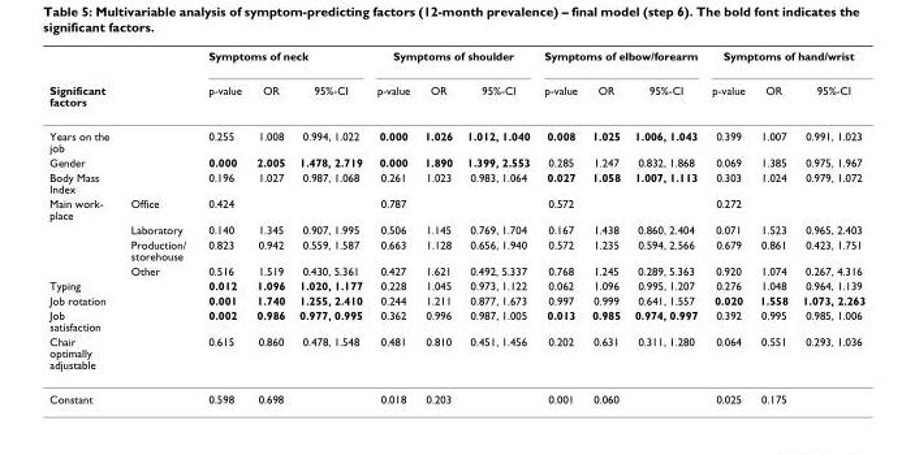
<table><thead><tr><td rowspan="2">Significant factors</td><td rowspan="2"></td><td colspan="3">Symptoms of neck</td><td colspan="3">Symptoms of shoulder</td><td colspan="3">Symptoms of elbow/forearm</td><td colspan="3">Symptoms of hand/wrist</td></tr><tr><td>p-value</td><td>OR</td><td>95%-CI</td><td>p-value</td><td>OR</td><td>95%-CI</td><td>p-value</td><td>OR</td><td>95%-CI</td><td>p-value</td><td>OR</td><td>95%-CI</td></tr></thead><tbody><tr><td>Years on the job</td><td></td><td>0.255</td><td>1.008</td><td>0.994, 1.022</td><td>0.000</td><td>1.026</td><td>1.012, 1.040</td><td>0.008</td><td>1.025</td><td>1.006, 1.043</td><td>0.399</td><td>1.007</td><td>0.991, 1.023</td></tr><tr><td>Gender</td><td></td><td>0.000</td><td>2.005</td><td>1.478, 2.719</td><td>0.000</td><td>1.890</td><td>1.399, 2.553</td><td>0.285</td><td>1.247</td><td>0.832, 1.868</td><td>0.069</td><td>1.385</td><td>0.975, 1.967</td></tr><tr><td>Body Mass Index</td><td></td><td>0.196</td><td>1.027</td><td>0.987, 1.068</td><td>0.261</td><td>1.023</td><td>0.983, 1.064</td><td>0.027</td><td>1.058</td><td>1.007, 1.113</td><td>0.303</td><td>1.024</td><td>0.979, 1.072</td></tr><tr><td rowspan="4">Main work- place</td><td>Office</td><td>0.424</td><td></td><td></td><td>0.787</td><td></td><td></td><td>0.572</td><td></td><td></td><td>0.272</td><td></td><td></td></tr><tr><td>Laboratory</td><td>0.140</td><td>1.345</td><td>0.907, 1.995</td><td>0.506</td><td>1.145</td><td>0.769, 1.704</td><td>0.167</td><td>1.438</td><td>0.860, 2.404</td><td>0.071</td><td>1.523</td><td>0.965, 2.403</td></tr><tr><td>Production/ storehouse</td><td>0.823</td><td>0.942</td><td>0.559, 1.587</td><td>0.663</td><td>1.128</td><td>0.656, 1.940</td><td>0.572</td><td>1.235</td><td>0.594, 2.566</td><td>0.679</td><td>0.861</td><td>0.423, 1.751</td></tr><tr><td>Other</td><td>0.516</td><td>1.519</td><td>0.430, 5.361</td><td>0.427</td><td>1.621</td><td>0.492, 5.337</td><td>0.768</td><td>1.245</td><td>0.289, 5.363</td><td>0.920</td><td>1.074</td><td>0.267, 4.316</td></tr><tr><td>Typing</td><td></td><td>0.012</td><td>1.096</td><td>1.020, 1.177</td><td>0.228</td><td>1.045</td><td>0.973, 1.122</td><td>0.062</td><td>1.096</td><td>0.995, 1.207</td><td>0.276</td><td>1.048</td><td>0.964, 1.139</td></tr><tr><td>Job rotation</td><td></td><td>0.001</td><td>1.740</td><td>1.255, 2.410</td><td>0.244</td><td>1.211</td><td>0.877, 1.673</td><td>0.997</td><td>0.999</td><td>0.641, 1.557</td><td>0.020</td><td>1.558</td><td>1.073, 2.263</td></tr><tr><td>Job satisfaction</td><td></td><td>0.002</td><td>0.986</td><td>0.977, 0.995</td><td>0.362</td><td>0.996</td><td>0.987, 1.005</td><td>0.013</td><td>0.985</td><td>0.974, 0.997</td><td>0.392</td><td>0.995</td><td>0.985, 1.006</td></tr><tr><td>Chair optimally adjustable</td><td></td><td>0.615</td><td>0.860</td><td>0.478, 1.548</td><td>0.481</td><td>0.810</td><td>0.451, 1.456</td><td>0.202</td><td>0.631</td><td>0.311, 1.280</td><td>0.064</td><td>0.551</td><td>0.293, 1.036</td></tr><tr><td colspan="2">Constant</td><td>0.598</td><td>0.698</td><td></td><td>0.018</td><td>0.203</td><td></td><td>0.001</td><td>0.060</td><td></td><td>0.025</td><td>0.175</td><td></td></tr></tbody></table>